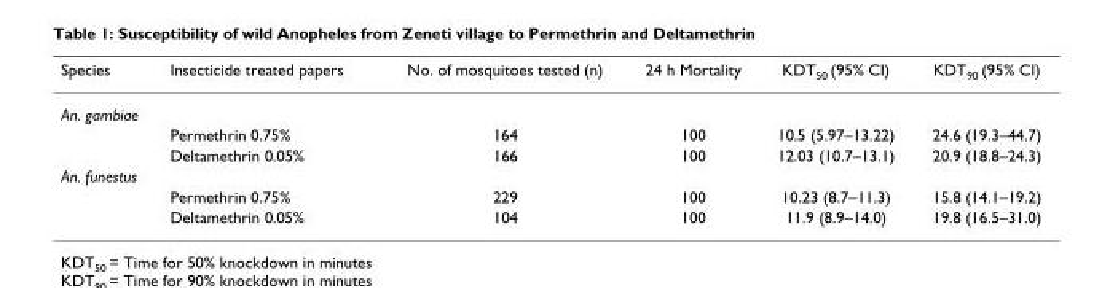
<table><thead><tr><td>Species</td><td>Insecticide treated papers</td><td>No. of mosquitoes tested (n)</td><td>24 h Mortality</td><td>KDT<sub>50</sub> (95% CI)</td><td>KDT<sub>90</sub> (95% CI)</td></tr></thead><tbody><tr><td colspan="6">An. gambiae</td></tr><tr><td></td><td>Permethrin 0.75%</td><td>164</td><td>100</td><td>10.5 (5.97–13.22)</td><td>24.6 (19.3–44.7)</td></tr><tr><td></td><td>Deltamethrin 0.05%</td><td>166</td><td>100</td><td>12.03 (10.7–13.1)</td><td>20.9 (18.8–24.3)</td></tr><tr><td colspan="6">An. funestus</td></tr><tr><td></td><td>Permethrin 0.75%</td><td>229</td><td>100</td><td>10.23 (8.7–11.3)</td><td>15.8 (14.1–19.2)</td></tr><tr><td></td><td>Deltamethrin 0.05%</td><td>104</td><td>100</td><td>11.9 (8.9–14.0)</td><td>19.8 (16.5–31.0)</td></tr></tbody></table>